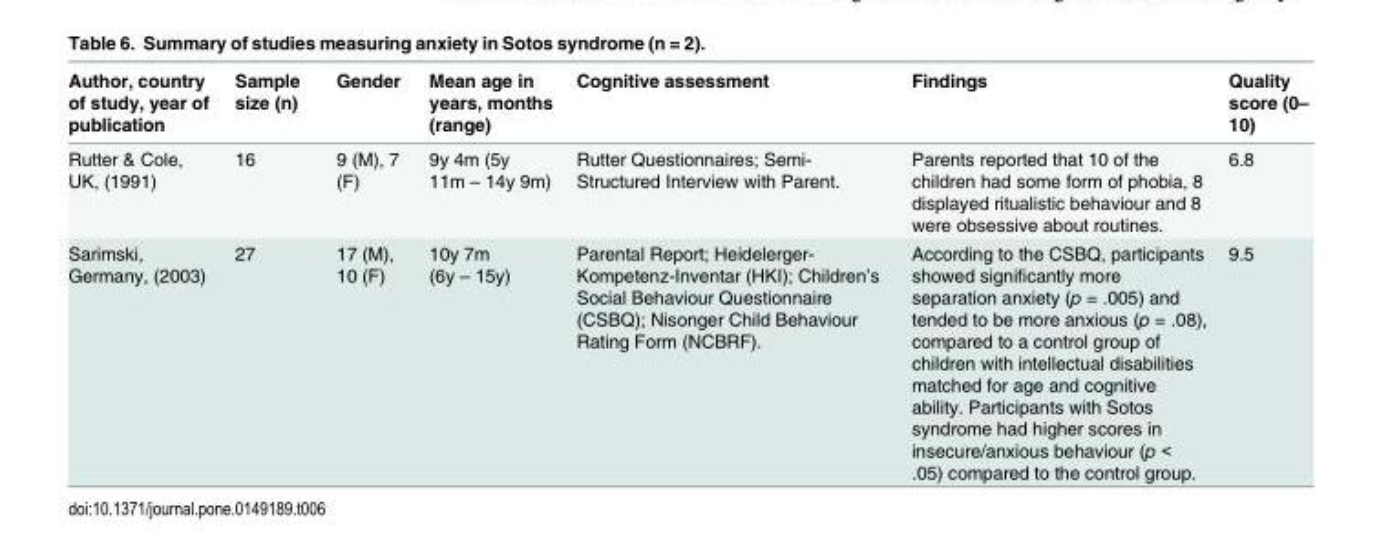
<table><thead><tr><td>Author, country of study, year of publication</td><td>Sample size (n)</td><td>Gender</td><td>Mean age in years, months (range)</td><td>Cognitive assessment</td><td>Findings</td><td>Quality score (0– 10)</td></tr></thead><tbody><tr><td>Rutter &amp; Cole, UK, (1991)</td><td>16</td><td>9 (M), 7 (F)</td><td>9y 4m (5y 11m – 14y 9m)</td><td>Rutter Questionnaires; Semi- Structured Interview with Parent.</td><td>Parents reported that 10 of the children had some form of phobia, 8 displayed ritualistic behaviour and 8 were obsessive about routines.</td><td>6.8</td></tr><tr><td>Sarimski, Germany, (2003)</td><td>27</td><td>17 (M), 10 (F)</td><td>10y 7m (6y – 15y)</td><td>Parental Report; Heidelerger- Kompetenz-Inventar (HKI); Children’s Social Behaviour Questionnaire (CSBQ); Nisonger Child Behaviour Rating Form (NCBRF).</td><td>According to the CSBQ, participants showed significantly more separation anxiety (p = .005) and tended to be more anxious (p = .08), compared to a control group of children with intellectual disabilities matched for age and cognitive ability. Participants with Sotos syndrome had higher scores in insecure/anxious behaviour (p &lt; .05) compared to the control group.</td><td>9.5</td></tr></tbody></table>